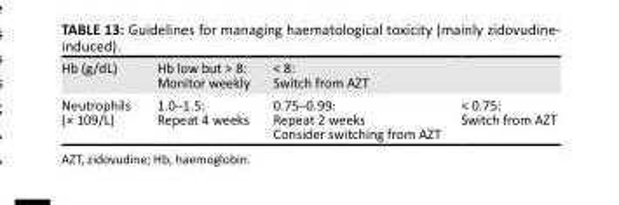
<table><tbody><tr><td>Hb (g/dL)</td><td>Hb low but &gt; 8: Monitor weekly</td><td>&lt; 8: Switch from AZT</td><td></td></tr><tr><td>Neutrophils (× 109/L)</td><td>1.0–1.5: Repeat 4 weeks</td><td>0.75–0.99: Repeat 2 weeks Consider switching from AZT</td><td>&lt; 0.75: Switch from AZT</td></tr></tbody></table>